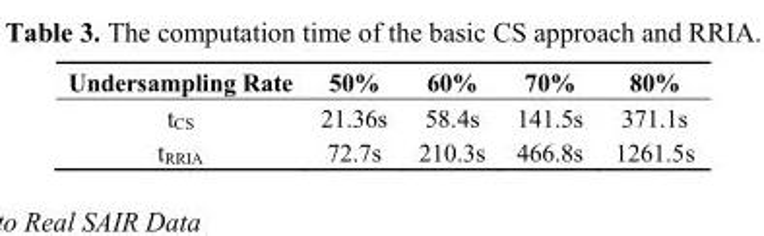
<table><thead><tr><td>Undersampling Rate</td><td>50%</td><td>60%</td><td>70%</td><td>80%</td></tr></thead><tbody><tr><td>t<sub>CS</sub></td><td>21.36s</td><td>58.4s</td><td>141.5s</td><td>371.1s</td></tr><tr><td>t<sub>RRIA</sub></td><td>72.7s</td><td>210.3s</td><td>466.8s</td><td>1261.5s</td></tr></tbody></table>